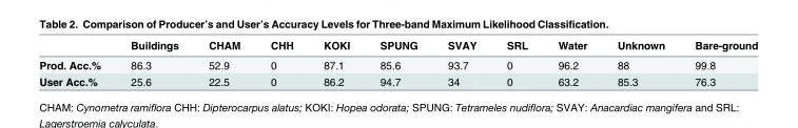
<table><thead><tr><td></td><td>Buildings</td><td>CHAM</td><td>CHH</td><td>KOKI</td><td>SPUNG</td><td>SVAY</td><td>SRL</td><td>Water</td><td>Unknown</td><td>Bare-ground</td></tr></thead><tbody><tr><td>Prod. Acc.%</td><td>86.3</td><td>52.9</td><td>0</td><td>87.1</td><td>85.6</td><td>93.7</td><td>0</td><td>96.2</td><td>88</td><td>99.8</td></tr><tr><td>User Acc.%</td><td>25.6</td><td>22.5</td><td>0</td><td>86.2</td><td>94.7</td><td>34</td><td>0</td><td>63.2</td><td>85.3</td><td>76.3</td></tr></tbody></table>